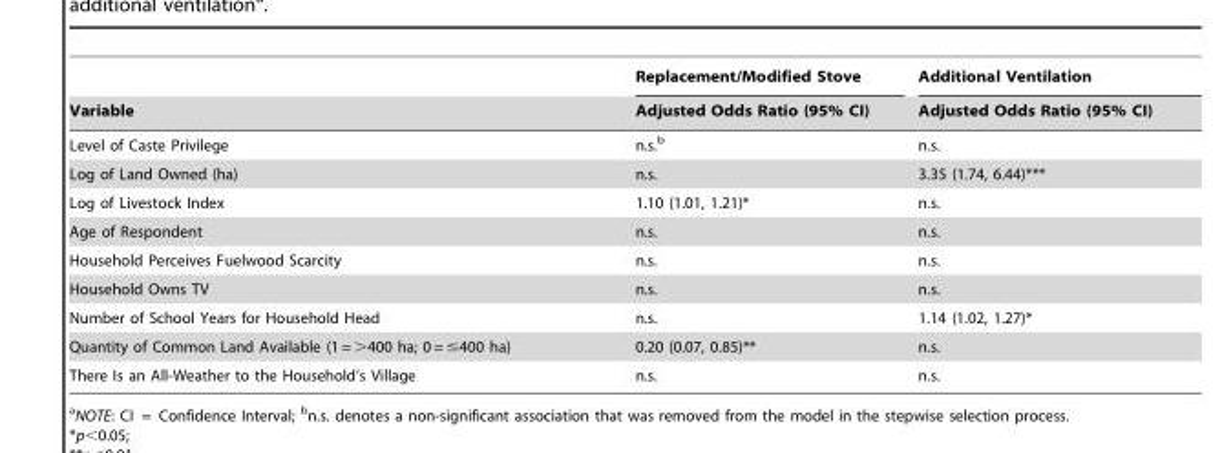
<table><thead><tr><td rowspan="2">Variable</td><td rowspan="2">Replacement/Modified Stove Adjusted Odds Ratio (95% CI)</td><td rowspan="2">Additional Ventilation Adjusted Odds Ratio (95% CI)</td></tr><tr></tr></thead><tbody><tr><td>Level of Caste Privilege</td><td>n.s.<sup>b</sup></td><td>n.s.</td></tr><tr><td>Log of Land Owned (ha)</td><td>n.s.</td><td>3.35 (1.74, 6.44)***</td></tr><tr><td>Log of Livestock Index</td><td>1.10 (1.01, 1.21)*</td><td>n.s.</td></tr><tr><td>Age of Respondent</td><td>n.s.</td><td>n.s.</td></tr><tr><td>Household Perceives Fuelwood Scarcity</td><td>n.s.</td><td>n.s.</td></tr><tr><td>Household Owns TV</td><td>n.s.</td><td>n.s.</td></tr><tr><td>Number of School Years for Household Head</td><td>n.s.</td><td>1.14 (1.02, 1.27)*</td></tr><tr><td>Quantity of Common Land Available (1 = &gt;400 ha; 0 = ≤400 ha)</td><td>0.20 (0.07, 0.85)**</td><td>n.s.</td></tr><tr><td>There Is an All-Weather to the Household’s Village</td><td>n.s.</td><td>n.s.</td></tr></tbody></table>